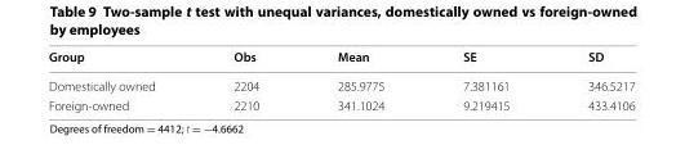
<table><thead><tr><td>Group</td><td>Obs</td><td>Mean</td><td>SE</td><td>SD</td></tr></thead><tbody><tr><td>Domestically owned</td><td>2204</td><td>285.9775</td><td>7.381161</td><td>346.5217</td></tr><tr><td>Foreign-owned</td><td>2210</td><td>341.1024</td><td>9.219415</td><td>433.4106</td></tr></tbody></table>